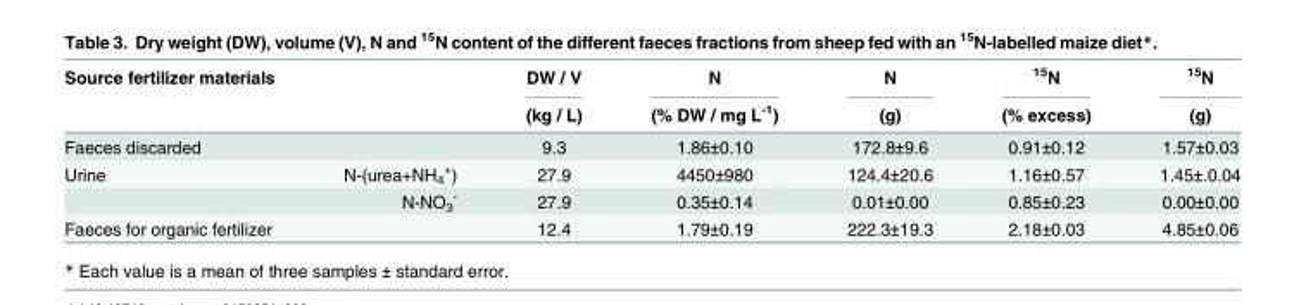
<table><thead><tr><td rowspan="2">Source fertilizer materials</td><td rowspan="2"></td><td rowspan="2">DW / V (kg / L)</td><td rowspan="2">N (% DW / mg L<sup>-1</sup>)</td><td rowspan="2">N (g)</td><td rowspan="2"><sup>15</sup>N (% excess)</td><td rowspan="2"><sup>15</sup>N (g)</td></tr><tr></tr></thead><tbody><tr><td>Faeces discarded</td><td></td><td>9.3</td><td>1.86±0.10</td><td>172.8±9.6</td><td>0.91±0.12</td><td>1.57±0.03</td></tr><tr><td rowspan="2">Urine</td><td>N-(urea+NH<sub>4</sub> <sup>+</sup>)</td><td>27.9</td><td>4450±980</td><td>124.4±20.6</td><td>1.16±0.57</td><td>1.45±.0.04</td></tr><tr><td>N-NO<sub>3</sub> <sup>-</sup></td><td>27.9</td><td>0.35±0.14</td><td>0.01±0.00</td><td>0.85±0.23</td><td>0.00±0.00</td></tr><tr><td>Faeces for organic fertilizer</td><td></td><td>12.4</td><td>1.79±0.19</td><td>222.3±19.3</td><td>2.18±0.03</td><td>4.85±0.06</td></tr></tbody></table>